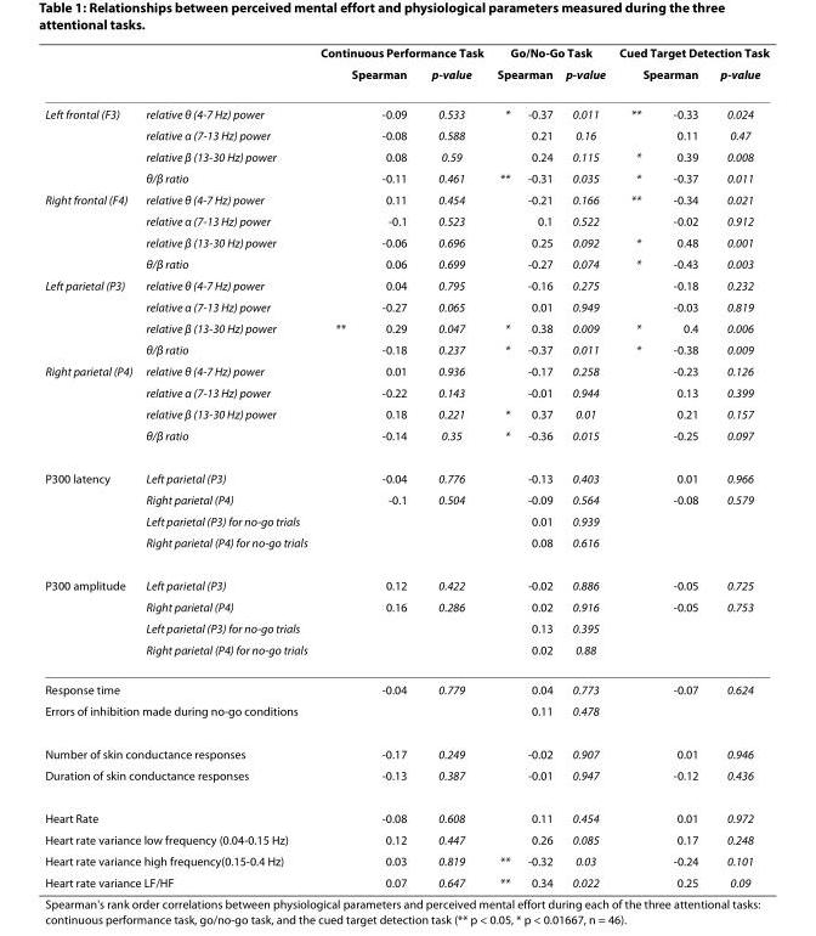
<table><thead><tr><td rowspan="3">Left frontal (F3)</td><td rowspan="3">relative θ (4-7 Hz) power</td><td colspan="3">Continuous Performance Task</td><td colspan="3">Go/No-Go Task</td><td colspan="3">Cued Target Detection Task</td></tr><tr><td colspan="2">Spearman</td><td rowspan="2">p-value 0.533</td><td colspan="2">Spearman</td><td rowspan="2">p-value 0.011</td><td colspan="2">Spearman</td><td rowspan="2">p-value 0.024</td></tr><tr><td></td><td>-0.09</td><td>*</td><td>-0.37</td><td>**</td><td>-0.33</td></tr></thead><tbody><tr><td></td><td>relative α (7-13 Hz) power</td><td></td><td>-0.08</td><td>0.588</td><td></td><td>0.21</td><td>0.16</td><td></td><td>0.11</td><td>0.47</td></tr><tr><td></td><td>relative β (13-30 Hz) power</td><td></td><td>0.08</td><td>0.59</td><td></td><td>0.24</td><td>0.115</td><td>*</td><td>0.39</td><td>0.008</td></tr><tr><td></td><td>θ/β ratio</td><td></td><td>-0.11</td><td>0.461</td><td>**</td><td>-0.31</td><td>0.035</td><td>*</td><td>-0.37</td><td>0.011</td></tr><tr><td rowspan="4">Right frontal (F4)</td><td>relative θ (4-7 Hz) power</td><td></td><td>0.11</td><td>0.454</td><td></td><td>-0.21</td><td>0.166</td><td>**</td><td>-0.34</td><td>0.021</td></tr><tr><td>relative α (7-13 Hz) power</td><td></td><td>-0.1</td><td>0.523</td><td></td><td>0.1</td><td>0.522</td><td></td><td>-0.02</td><td>0.912</td></tr><tr><td>relative β (13-30 Hz) power</td><td></td><td>-0.06</td><td>0.696</td><td></td><td>0.25</td><td>0.092</td><td>*</td><td>0.48</td><td>0.001</td></tr><tr><td>θ/β ratio</td><td></td><td>0.06</td><td>0.699</td><td></td><td>-0.27</td><td>0.074</td><td>*</td><td>-0.43</td><td>0.003</td></tr><tr><td rowspan="4">Left parietal (P3)</td><td>relative θ (4-7 Hz) power</td><td></td><td>0.04</td><td>0.795</td><td></td><td>-0.16</td><td>0.275</td><td></td><td>-0.18</td><td>0.232</td></tr><tr><td>relative α (7-13 Hz) power</td><td></td><td>-0.27</td><td>0.065</td><td></td><td>0.01</td><td>0.949</td><td></td><td>-0.03</td><td>0.819</td></tr><tr><td>relative β (13-30 Hz) power</td><td>**</td><td>0.29</td><td>0.047</td><td>*</td><td>0.38</td><td>0.009</td><td>*</td><td>0.4</td><td>0.006</td></tr><tr><td>θ/β ratio</td><td></td><td>-0.18</td><td>0.237</td><td>*</td><td>-0.37</td><td>0.011</td><td>*</td><td>-0.38</td><td>0.009</td></tr><tr><td rowspan="4">Right parietal (P4)</td><td>relative θ (4-7 Hz) power</td><td></td><td>0.01</td><td>0.936</td><td></td><td>-0.17</td><td>0.258</td><td></td><td>-0.23</td><td>0.126</td></tr><tr><td>relative α (7-13 Hz) power</td><td></td><td>-0.22</td><td>0.143</td><td></td><td>-0.01</td><td>0.944</td><td></td><td>0.13</td><td>0.399</td></tr><tr><td>relative β (13-30 Hz) power</td><td></td><td>0.18</td><td>0.221</td><td>*</td><td>0.37</td><td>0.01</td><td></td><td>0.21</td><td>0.157</td></tr><tr><td>θ/β ratio</td><td></td><td>-0.14</td><td>0.35</td><td>*</td><td>-0.36</td><td>0.015</td><td></td><td>-0.25</td><td>0.097</td></tr><tr><td rowspan="4">P300 latency</td><td>Left parietal (P3)</td><td></td><td>-0.04</td><td>0.776</td><td></td><td>-0.13</td><td>0.403</td><td></td><td>0.01</td><td>0.966</td></tr><tr><td>Right parietal (P4)</td><td></td><td>-0.1</td><td>0.504</td><td></td><td>-0.09</td><td>0.564</td><td></td><td>-0.08</td><td>0.579</td></tr><tr><td>Left parietal (P3) for no-go trials</td><td></td><td></td><td></td><td></td><td>0.01</td><td>0.939</td><td></td><td></td><td></td></tr><tr><td>Right parietal (P4) for no-go trials</td><td></td><td></td><td></td><td></td><td>0.08</td><td>0.616</td><td></td><td></td><td></td></tr><tr><td rowspan="4">P300 amplitude</td><td>Left parietal (P3)</td><td></td><td>0.12</td><td>0.422</td><td></td><td>-0.02</td><td>0.886</td><td></td><td>-0.05</td><td>0.725</td></tr><tr><td>Right parietal (P4)</td><td></td><td>0.16</td><td>0.286</td><td></td><td>0.02</td><td>0.916</td><td></td><td>-0.05</td><td>0.753</td></tr><tr><td>Left parietal (P3) for no-go trials</td><td></td><td></td><td></td><td></td><td>0.13</td><td>0.395</td><td></td><td></td><td></td></tr><tr><td>Right parietal (P4) for no-go trials</td><td></td><td></td><td></td><td></td><td>0.02</td><td>0.88</td><td></td><td></td><td></td></tr><tr><td>Response time</td><td></td><td></td><td>-0.04</td><td>0.779</td><td></td><td>0.04</td><td>0.773</td><td></td><td>-0.07</td><td>0.624</td></tr><tr><td colspan="2">Errors of inhibition made during no-go conditions</td><td></td><td></td><td></td><td></td><td>0.11</td><td>0.478</td><td></td><td></td><td></td></tr><tr><td colspan="2">Number of skin conductance responses</td><td></td><td>-0.17</td><td>0.249</td><td></td><td>-0.02</td><td>0.907</td><td></td><td>0.01</td><td>0.946</td></tr><tr><td colspan="2">Duration of skin conductance responses</td><td></td><td>-0.13</td><td>0.387</td><td></td><td>-0.01</td><td>0.947</td><td></td><td>-0.12</td><td>0.436</td></tr><tr><td>Heart Rate</td><td></td><td></td><td>-0.08</td><td>0.608</td><td></td><td>0.11</td><td>0.454</td><td></td><td>0.01</td><td>0.972</td></tr><tr><td colspan="2">Heart rate variance low frequency (0.04-0.15 Hz)</td><td></td><td>0.12</td><td>0.447</td><td></td><td>0.26</td><td>0.085</td><td></td><td>0.17</td><td>0.248</td></tr><tr><td colspan="2">Heart rate variance high frequency(0.15-0.4 Hz)</td><td></td><td>0.03</td><td>0.819</td><td>**</td><td>-0.32</td><td>0.03</td><td></td><td>-0.24</td><td>0.101</td></tr><tr><td colspan="2">Heart rate variance LF/HF</td><td></td><td>0.07</td><td>0.647</td><td>**</td><td>0.34</td><td>0.022</td><td></td><td>0.25</td><td>0.09</td></tr></tbody></table>